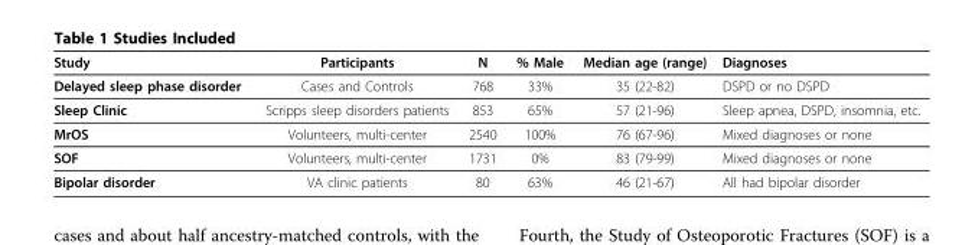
<table><thead><tr><td>Study</td><td>Participants</td><td>N</td><td>% Male</td><td>Median age (range)</td><td>Diagnoses</td></tr></thead><tbody><tr><td>Delayed sleep phase disorder</td><td>Cases and Controls</td><td>768</td><td>33%</td><td>35 (22-82)</td><td>DSPD or no DSPD</td></tr><tr><td>Sleep Clinic</td><td>Scripps sleep disorders patients</td><td>853</td><td>65%</td><td>57 (21-96)</td><td>Sleep apnea, DSPD, insomnia, etc.</td></tr><tr><td>MrOS</td><td>Volunteers, multi-center</td><td>2540</td><td>100%</td><td>76 (67-96)</td><td>Mixed diagnoses or none</td></tr><tr><td>SOF</td><td>Volunteers, multi-center</td><td>1731</td><td>0%</td><td>83 (79-99)</td><td>Mixed diagnoses or none</td></tr><tr><td>Bipolar disorder</td><td>VA clinic patients</td><td>80</td><td>63%</td><td>46 (21-67)</td><td>All had bipolar disorder</td></tr></tbody></table>